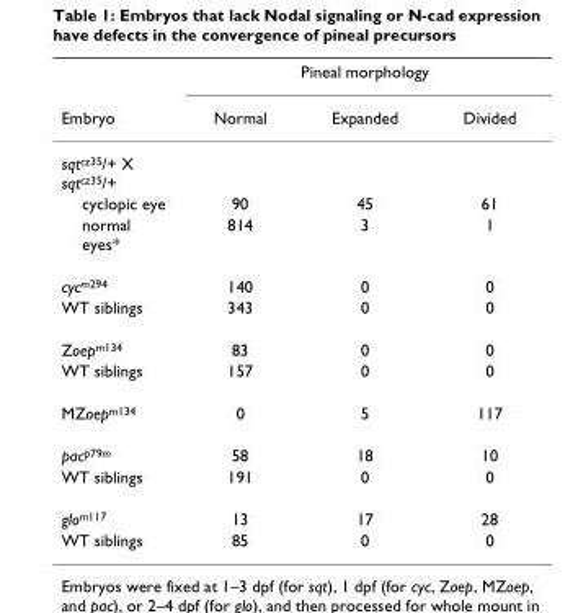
<table><thead><tr><td rowspan="2">Embryo</td><td colspan="3">Pineal morphology</td></tr><tr><td>Normal</td><td>Expanded</td><td>Divided</td></tr></thead><tbody><tr><td colspan="4">sqt<sup>cz35</sup>/+ X sqt<sup>cz35</sup>/+</td></tr><tr><td>cyclopic eye</td><td>90</td><td>45</td><td>61</td></tr><tr><td>normal eyes*</td><td>814</td><td>3</td><td>1</td></tr><tr><td>cyc<sup>m294</sup></td><td>140</td><td>0</td><td>0</td></tr><tr><td>WT siblings</td><td>343</td><td>0</td><td>0</td></tr><tr><td>Zoep<sup>m134</sup></td><td>83</td><td>0</td><td>0</td></tr><tr><td>WT siblings</td><td>157</td><td>0</td><td>0</td></tr><tr><td>MZoep<sup>m134</sup></td><td>0</td><td>5</td><td>117</td></tr><tr><td>pac<sup>p79m</sup></td><td>58</td><td>18</td><td>10</td></tr><tr><td>WT siblings</td><td>191</td><td>0</td><td>0</td></tr><tr><td>glo<sup>m117</sup></td><td>13</td><td>17</td><td>28</td></tr><tr><td>WT siblings</td><td>85</td><td>0</td><td>0</td></tr></tbody></table>